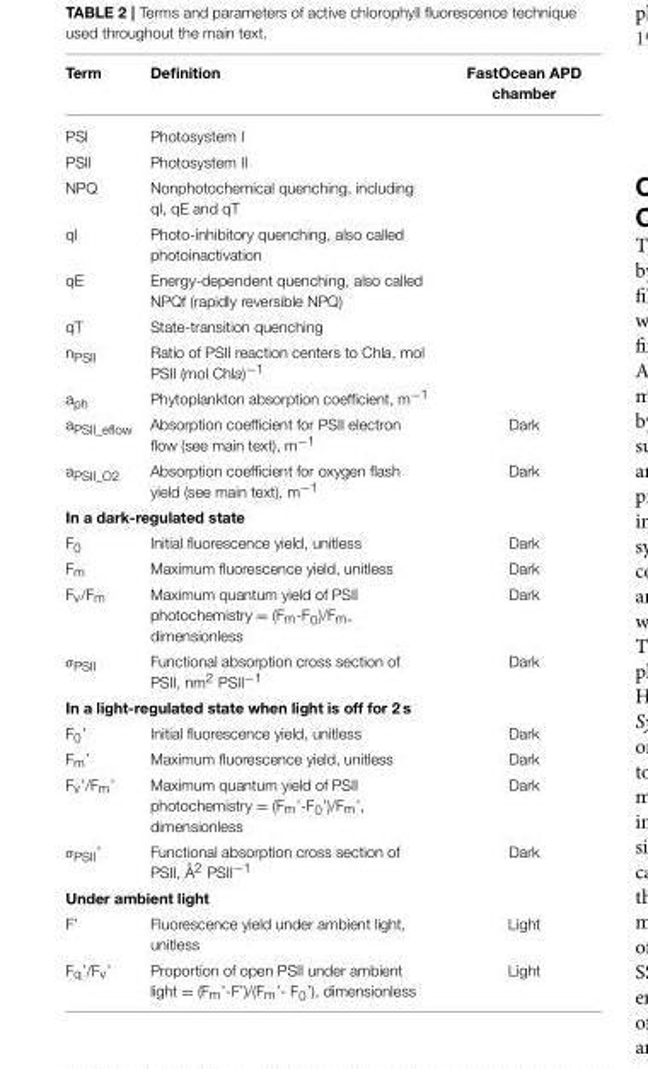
<table><thead><tr><td>Term</td><td>Definition</td><td>FastOcean APD chamber</td></tr></thead><tbody><tr><td>PSI</td><td>Photosystem I</td><td></td></tr><tr><td>PSII</td><td>Photosystem II</td><td></td></tr><tr><td>NPQ</td><td>Nonphotochemical quenching, including qI, qE and qT</td><td></td></tr><tr><td>qI</td><td>Photo-inhibitory quenching, also called photoinactivation</td><td></td></tr><tr><td>qE</td><td>Energy-dependent quenching, also called NPQf (rapidly reversible NPQ)</td><td></td></tr><tr><td>qT</td><td>State-transition quenching</td><td></td></tr><tr><td>n<sub>PSII</sub></td><td>Ratio of PSII reaction centers to Chla, mol PSII (mol Chla)<sup>−1</sup></td><td></td></tr><tr><td>a<sub>ph</sub></td><td>Phytoplankton absorption coefficient, m<sup>−1</sup></td><td></td></tr><tr><td>a<sub>PSII_eflow</sub></td><td>Absorption coefficient for PSII electron flow (see main text), m<sup>−1</sup></td><td>Dark</td></tr><tr><td>a<sub>PSII_O2</sub></td><td>Absorption coefficient for oxygen flash yield (see main text), m<sup>−1</sup></td><td>Dark</td></tr><tr><td colspan="3">In a dark-regulated state</td></tr><tr><td>F<sub>0</sub></td><td>Initial fluorescence yield, unitless</td><td>Dark</td></tr><tr><td>F<sub>m</sub></td><td>Maximum fluorescence yield, unitless</td><td>Dark</td></tr><tr><td>F<sub>v</sub>/F<sub>m</sub></td><td>Maximum quantum yield of PSII photochemistry = (F<sub>m</sub>-F<sub>0</sub>)/F<sub>m</sub>, dimensionless</td><td>Dark</td></tr><tr><td>σ<sub>PSII</sub></td><td>Functional absorption cross section of PSII, nm<sup>2</sup> PSII<sup>−1</sup></td><td>Dark</td></tr><tr><td colspan="3">In a light-regulated state when light is off for 2 s</td></tr><tr><td>F<sub>0</sub>’</td><td>Initial fluorescence yield, unitless</td><td>Dark</td></tr><tr><td>F<sub>m</sub>’</td><td>Maximum fluorescence yield, unitless</td><td>Dark</td></tr><tr><td>F<sub>v</sub>’/F<sub>m</sub>’</td><td>Maximum quantum yield of PSII photochemistry = (F<sub>m</sub>’-F<sub>0</sub>’)/F<sub>m</sub>’, dimensionless</td><td>Dark</td></tr><tr><td>σ<sub>PSII</sub>’</td><td>Functional absorption cross section of PSII, Å<sup>2</sup> PSII<sup>−1</sup></td><td>Dark</td></tr><tr><td colspan="3">Under ambient light</td></tr><tr><td>F’</td><td>Fluorescence yield under ambient light, unitless</td><td>Light</td></tr><tr><td>F<sub>q</sub>’/F<sub>v</sub>’</td><td>Proportion of open PSII under ambient light = (F<sub>m</sub>’-F’)/(F<sub>m</sub>’- F<sub>0</sub>’), dimensionless</td><td>Light</td></tr></tbody></table>